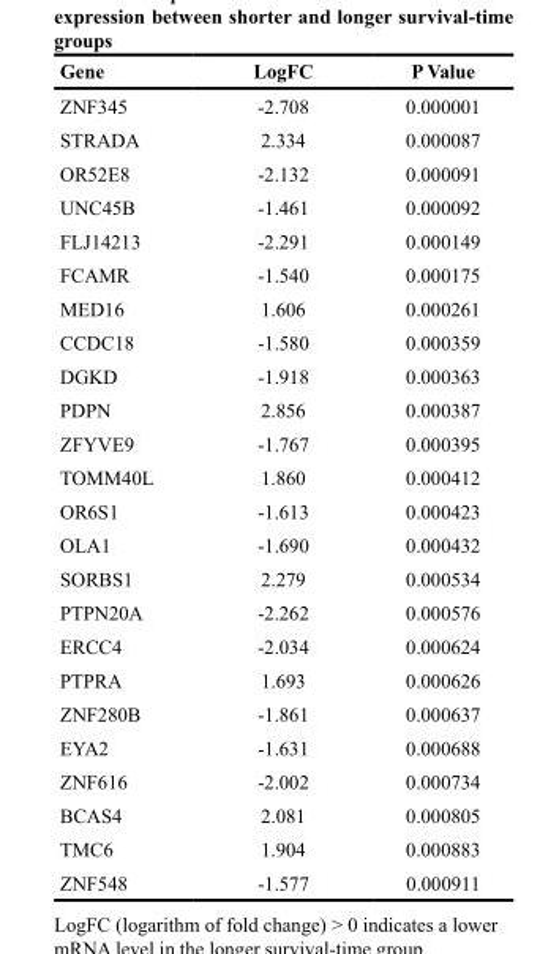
<table><thead><tr><td>Gene</td><td>LogFC</td><td>P Value</td></tr></thead><tbody><tr><td>ZNF345</td><td>-2.708</td><td>0.000001</td></tr><tr><td>STRADA</td><td>2.334</td><td>0.000087</td></tr><tr><td>OR52E8</td><td>-2.132</td><td>0.000091</td></tr><tr><td>UNC45B</td><td>-1.461</td><td>0.000092</td></tr><tr><td>FLJ14213</td><td>-2.291</td><td>0.000149</td></tr><tr><td>FCAMR</td><td>-1.540</td><td>0.000175</td></tr><tr><td>MED16</td><td>1.606</td><td>0.000261</td></tr><tr><td>CCDC18</td><td>-1.580</td><td>0.000359</td></tr><tr><td>DGKD</td><td>-1.918</td><td>0.000363</td></tr><tr><td>PDPN</td><td>2.856</td><td>0.000387</td></tr><tr><td>ZFYVE9</td><td>-1.767</td><td>0.000395</td></tr><tr><td>TOMM40L</td><td>1.860</td><td>0.000412</td></tr><tr><td>OR6S1</td><td>-1.613</td><td>0.000423</td></tr><tr><td>OLA1</td><td>-1.690</td><td>0.000432</td></tr><tr><td>SORBS1</td><td>2.279</td><td>0.000534</td></tr><tr><td>PTPN20A</td><td>-2.262</td><td>0.000576</td></tr><tr><td>ERCC4</td><td>-2.034</td><td>0.000624</td></tr><tr><td>PTPRA</td><td>1.693</td><td>0.000626</td></tr><tr><td>ZNF280B</td><td>-1.861</td><td>0.000637</td></tr><tr><td>EYA2</td><td>-1.631</td><td>0.000688</td></tr><tr><td>ZNF616</td><td>-2.002</td><td>0.000734</td></tr><tr><td>BCAS4</td><td>2.081</td><td>0.000805</td></tr><tr><td>TMC6</td><td>1.904</td><td>0.000883</td></tr><tr><td>ZNF548</td><td>-1.577</td><td>0.000911</td></tr></tbody></table>